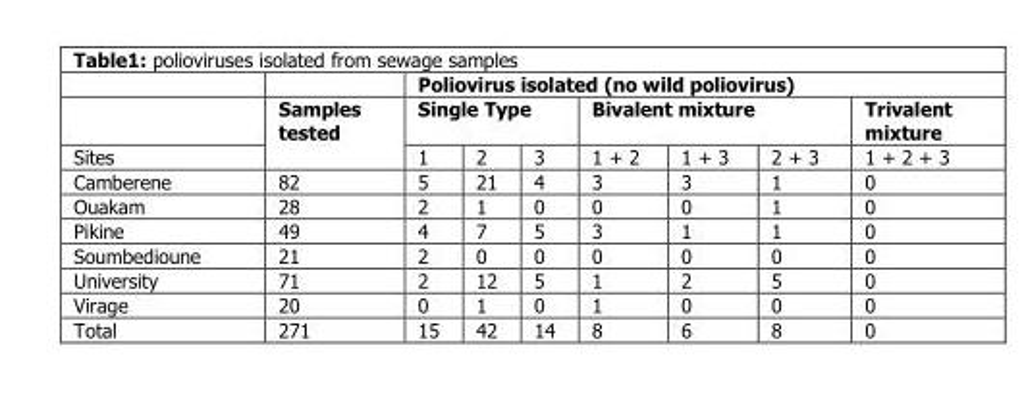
<table><thead><tr><td rowspan="3">Sites</td><td rowspan="3">Samples tested</td><td colspan="7">Poliovirus isolated (no wild poliovirus)</td></tr><tr><td colspan="3">Single Type</td><td colspan="3">Bivalent mixture</td><td rowspan="2">Trivalent mixture 1 + 2 + 3</td></tr><tr><td>1</td><td>2</td><td>3</td><td>1 + 2</td><td>1 + 3</td><td>2 + 3</td></tr></thead><tbody><tr><td>Camberene</td><td>82</td><td>5</td><td>21</td><td>4</td><td>3</td><td>3</td><td>1</td><td>0</td></tr><tr><td>Ouakam</td><td>28</td><td>2</td><td>1</td><td>0</td><td>0</td><td>0</td><td>1</td><td>0</td></tr><tr><td>Pikine</td><td>49</td><td>4</td><td>7</td><td>5</td><td>3</td><td>1</td><td>1</td><td>0</td></tr><tr><td>Soumbedioune</td><td>21</td><td>2</td><td>0</td><td>0</td><td>0</td><td>0</td><td>0</td><td>0</td></tr><tr><td>University</td><td>71</td><td>2</td><td>12</td><td>5</td><td>1</td><td>2</td><td>5</td><td>0</td></tr><tr><td>Virage</td><td>20</td><td>0</td><td>1</td><td>0</td><td>1</td><td>0</td><td>0</td><td>0</td></tr><tr><td>Total</td><td>271</td><td>15</td><td>42</td><td>14</td><td>8</td><td>6</td><td>8</td><td>0</td></tr></tbody></table>